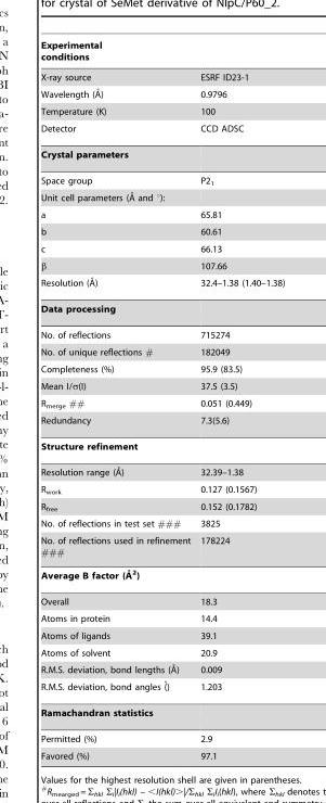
<table><thead><tr><td>Experimental conditions</td><td></td></tr></thead><tbody><tr><td>X-ray source</td><td>ESRF ID23-1</td></tr><tr><td>Wavelength (A˚)</td><td>0.9796</td></tr><tr><td>Temperature (K)</td><td>100</td></tr><tr><td>Detector</td><td>CCD ADSC</td></tr><tr><td colspan="2">Crystal parameters</td></tr><tr><td>Space group</td><td>P2<sub>1</sub></td></tr><tr><td colspan="2">Unit cell parameters (A˚ and u):</td></tr><tr><td>a</td><td>65.81</td></tr><tr><td>b</td><td>60.61</td></tr><tr><td>c</td><td>66.13</td></tr><tr><td>β</td><td>107.66</td></tr><tr><td>Resolution (A˚)</td><td>32.4–1.38 (1.40–1.38)</td></tr><tr><td colspan="2">Data processing</td></tr><tr><td>No. of reflections</td><td>715274</td></tr><tr><td>No. of unique reflections #</td><td>182049</td></tr><tr><td>Completeness (%)</td><td>95.9 (83.5)</td></tr><tr><td>Mean I/σ(I)</td><td>37.5 (3.5)</td></tr><tr><td>R<sub>merge</sub> ##</td><td>0.051 (0.449)</td></tr><tr><td>Redundancy</td><td>7.3(5.6)</td></tr><tr><td colspan="2">Structure refinement</td></tr><tr><td>Resolution range (A˚)</td><td>32.39–1.38</td></tr><tr><td>R<sub>work</sub></td><td>0.127 (0.1567)</td></tr><tr><td>R<sub>free</sub></td><td>0.152 (0.1782)</td></tr><tr><td>No. of reflections in test set ###</td><td>3825</td></tr><tr><td>No. of reflections used in refinement ###</td><td>178224</td></tr><tr><td colspan="2">Average B factor (A˚ 2)</td></tr><tr><td>Overall</td><td>18.3</td></tr><tr><td>Atoms in protein</td><td>14.4</td></tr><tr><td>Atoms of ligands</td><td>39.1</td></tr><tr><td>Atoms of solvent</td><td>20.9</td></tr><tr><td>R.M.S. deviation, bond lengths (A˚)</td><td>0.009</td></tr><tr><td>R.M.S. deviation, bond angles (˚)</td><td>1.203</td></tr><tr><td colspan="2">Ramachandran statistics</td></tr><tr><td>Permitted (%)</td><td>2.9</td></tr><tr><td>Favored (%)</td><td>97.1</td></tr></tbody></table>